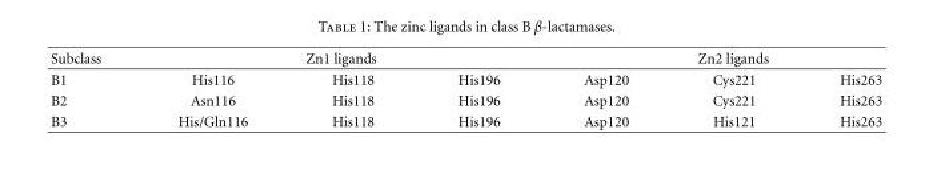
<table><thead><tr><td rowspan="2">Subclass B1</td><td colspan="3">Zn1 ligands</td><td colspan="3">Zn2 ligands</td></tr><tr><td>His116</td><td>His118</td><td>His196</td><td>Asp120</td><td>Cys221</td><td>His263</td></tr></thead><tbody><tr><td>B2</td><td>Asn116</td><td>His118</td><td>His196</td><td>Asp120</td><td>Cys221</td><td>His263</td></tr><tr><td>B3</td><td>His/Gln116</td><td>His118</td><td>His196</td><td>Asp120</td><td>His121</td><td>His263</td></tr></tbody></table>